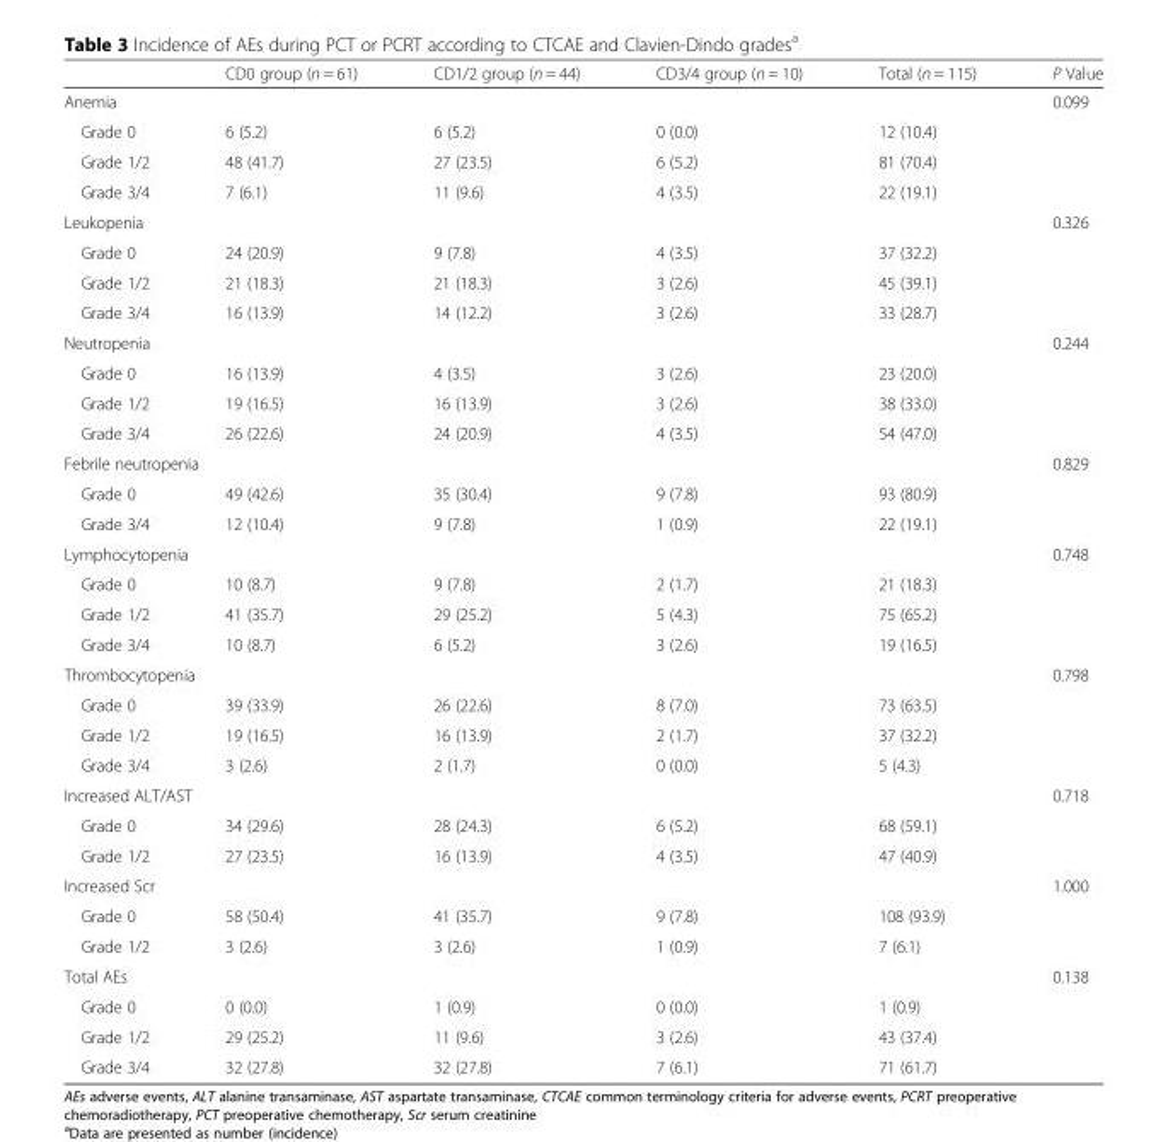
<table><thead><tr><td></td><td>CD0 group (n = 61)</td><td>CD1/2 group (n = 44)</td><td>CD3/4 group (n = 10)</td><td>Total (n = 115)</td><td>P Value</td></tr></thead><tbody><tr><td>Anemia</td><td></td><td></td><td></td><td></td><td>0.099</td></tr><tr><td>Grade 0</td><td>6 (5.2)</td><td>6 (5.2)</td><td>0 (0.0)</td><td>12 (10.4)</td><td></td></tr><tr><td>Grade 1/2</td><td>48 (41.7)</td><td>27 (23.5)</td><td>6 (5.2)</td><td>81 (70.4)</td><td></td></tr><tr><td>Grade 3/4</td><td>7 (6.1)</td><td>11 (9.6)</td><td>4 (3.5)</td><td>22 (19.1)</td><td></td></tr><tr><td colspan="2">Leukopenia</td><td></td><td></td><td></td><td>0.326</td></tr><tr><td>Grade 0</td><td>24 (20.9)</td><td>9 (7.8)</td><td>4 (3.5)</td><td>37 (32.2)</td><td></td></tr><tr><td>Grade 1/2</td><td>21 (18.3)</td><td>21 (18.3)</td><td>3 (2.6)</td><td>45 (39.1)</td><td></td></tr><tr><td>Grade 3/4</td><td>16 (13.9)</td><td>14 (12.2)</td><td>3 (2.6)</td><td>33 (28.7)</td><td></td></tr><tr><td colspan="2">Neutropenia</td><td></td><td></td><td></td><td>0.244</td></tr><tr><td>Grade 0</td><td>16 (13.9)</td><td>4 (3.5)</td><td>3 (2.6)</td><td>23 (20.0)</td><td></td></tr><tr><td>Grade 1/2</td><td>19 (16.5)</td><td>16 (13.9)</td><td>3 (2.6)</td><td>38 (33.0)</td><td></td></tr><tr><td>Grade 3/4</td><td>26 (22.6)</td><td>24 (20.9)</td><td>4 (3.5)</td><td>54 (47.0)</td><td></td></tr><tr><td colspan="2">Febrile neutropenia</td><td></td><td></td><td></td><td>0.829</td></tr><tr><td>Grade 0</td><td>49 (42.6)</td><td>35 (30.4)</td><td>9 (7.8)</td><td>93 (80.9)</td><td></td></tr><tr><td>Grade 3/4</td><td>12 (10.4)</td><td>9 (7.8)</td><td>1 (0.9)</td><td>22 (19.1)</td><td></td></tr><tr><td colspan="2">Lymphocytopenia</td><td></td><td></td><td></td><td>0.748</td></tr><tr><td>Grade 0</td><td>10 (8.7)</td><td>9 (7.8)</td><td>2 (1.7)</td><td>21 (18.3)</td><td></td></tr><tr><td>Grade 1/2</td><td>41 (35.7)</td><td>29 (25.2)</td><td>5 (4.3)</td><td>75 (65.2)</td><td></td></tr><tr><td>Grade 3/4</td><td>10 (8.7)</td><td>6 (5.2)</td><td>3 (2.6)</td><td>19 (16.5)</td><td></td></tr><tr><td colspan="2">Thrombocytopenia</td><td></td><td></td><td></td><td>0.798</td></tr><tr><td>Grade 0</td><td>39 (33.9)</td><td>26 (22.6)</td><td>8 (7.0)</td><td>73 (63.5)</td><td></td></tr><tr><td>Grade 1/2</td><td>19 (16.5)</td><td>16 (13.9)</td><td>2 (1.7)</td><td>37 (32.2)</td><td></td></tr><tr><td>Grade 3/4</td><td>3 (2.6)</td><td>2 (1.7)</td><td>0 (0.0)</td><td>5 (4.3)</td><td></td></tr><tr><td colspan="4">Increased ALT/AST</td><td></td><td>0.718</td></tr><tr><td>Grade 0</td><td>34 (29.6)</td><td>28 (24.3)</td><td>6 (5.2)</td><td>68 (59.1)</td><td></td></tr><tr><td>Grade 1/2</td><td>27 (23.5)</td><td>16 (13.9)</td><td>4 (3.5)</td><td>47 (40.9)</td><td></td></tr><tr><td colspan="2">Increased Scr</td><td></td><td></td><td></td><td>1.000</td></tr><tr><td>Grade 0</td><td>58 (50.4)</td><td>41 (35.7)</td><td>9 (7.8)</td><td>108 (93.9)</td><td></td></tr><tr><td>Grade 1/2</td><td>3 (2.6)</td><td>3 (2.6)</td><td>1 (0.9)</td><td>7 (6.1)</td><td></td></tr><tr><td colspan="4">Total AEs</td><td></td><td>0.138</td></tr><tr><td>Grade 0</td><td>0 (0.0)</td><td>1 (0.9)</td><td>0 (0.0)</td><td>1 (0.9)</td><td></td></tr><tr><td>Grade 1/2</td><td>29 (25.2)</td><td>11 (9.6)</td><td>3 (2.6)</td><td>43 (37.4)</td><td></td></tr><tr><td>Grade 3/4</td><td>32 (27.8)</td><td>32 (27.8)</td><td>7 (6.1)</td><td>71 (61.7)</td><td></td></tr></tbody></table>